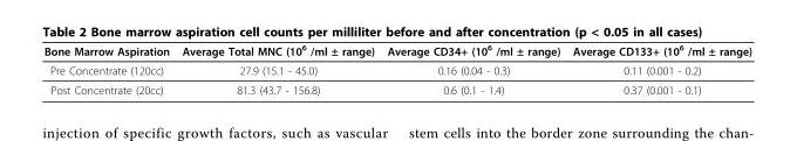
<table><thead><tr><td>Bone Marrow Aspiration</td><td>Average Total MNC (10<sup>6</sup> /ml ± range)</td><td>Average CD34+ (10<sup>6</sup> /ml ± range)</td><td>Average CD133+ (10<sup>6</sup> /ml ± range)</td></tr></thead><tbody><tr><td>Pre Concentrate (120cc)</td><td>27.9 (15.1 - 45.0)</td><td>0.16 (0.04 - 0.3)</td><td>0.11 (0.001 - 0.2)</td></tr><tr><td>Post Concentrate (20cc)</td><td>81.3 (43.7 - 156.8)</td><td>0.6 (0.1 - 1.4)</td><td>0.37 (0.001 - 0.1)</td></tr></tbody></table>